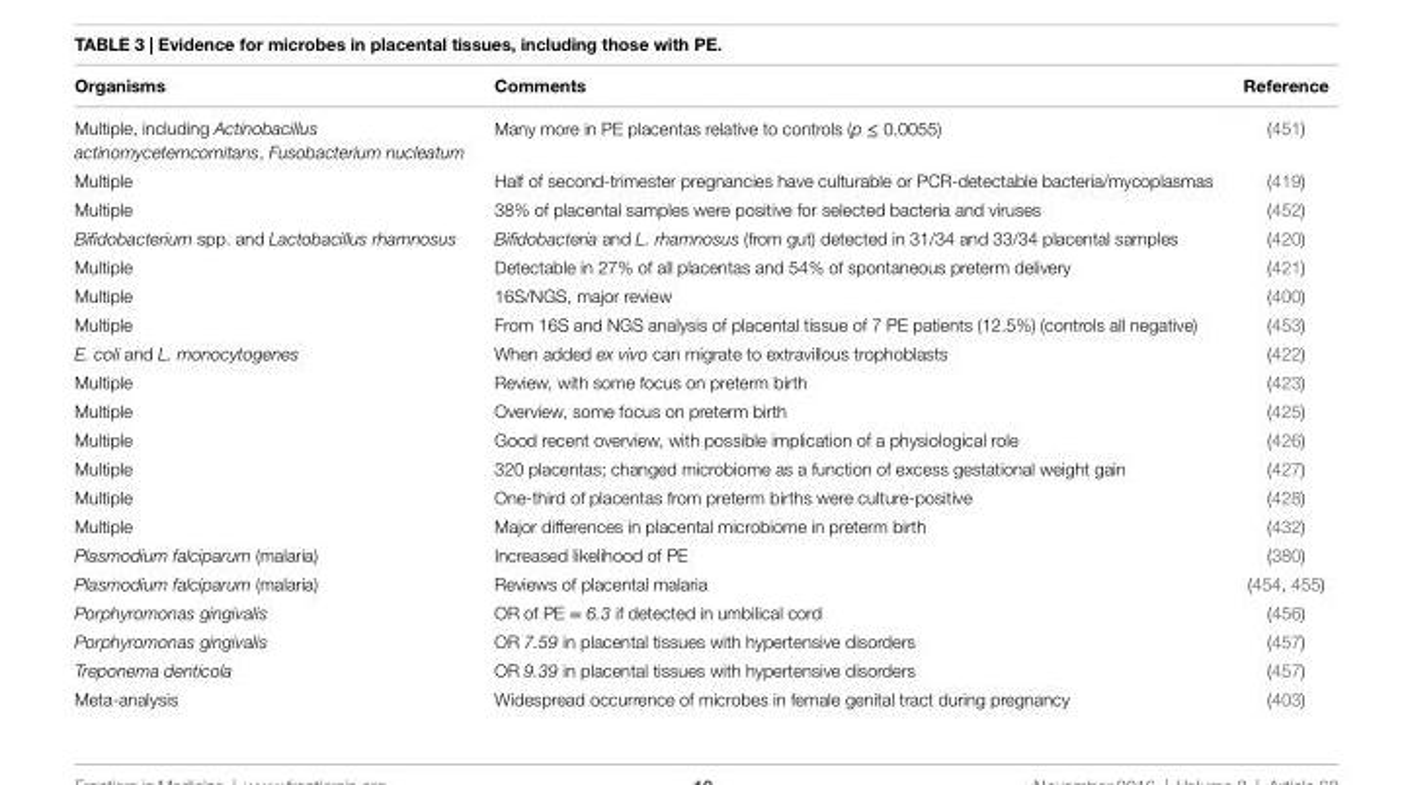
<table><thead><tr><td>Organisms</td><td>Comments</td><td>Reference</td></tr></thead><tbody><tr><td>Multiple, including Actinobacillus actinomycetemcomitans, Fusobacterium nucleatum</td><td>Many more in PE placentas relative to controls (p ≤ 0.0055)</td><td>(451)</td></tr><tr><td>Multiple</td><td>Half of second-trimester pregnancies have culturable or PCR-detectable bacteria/mycoplasmas</td><td>(419)</td></tr><tr><td>Multiple</td><td>38% of placental samples were positive for selected bacteria and viruses</td><td>(452)</td></tr><tr><td>Bifidobacterium spp. and Lactobacillus rhamnosus</td><td>Bifidobacteria and L. rhamnosus (from gut) detected in 31/34 and 33/34 placental samples</td><td>(420)</td></tr><tr><td>Multiple</td><td>Detectable in 27% of all placentas and 54% of spontaneous preterm delivery</td><td>(421)</td></tr><tr><td>Multiple</td><td>16S/NGS, major review</td><td>(400)</td></tr><tr><td>Multiple</td><td>From 16S and NGS analysis of placental tissue of 7 PE patients (12.5%) (controls all negative)</td><td>(453)</td></tr><tr><td>E. coli and L. monocytogenes</td><td>When added ex vivo can migrate to extravillous trophoblasts</td><td>(422)</td></tr><tr><td>Multiple</td><td>Review, with some focus on preterm birth</td><td>(423)</td></tr><tr><td>Multiple</td><td>Overview, some focus on preterm birth</td><td>(425)</td></tr><tr><td>Multiple</td><td>Good recent overview, with possible implication of a physiological role</td><td>(426)</td></tr><tr><td>Multiple</td><td>320 placentas; changed microbiome as a function of excess gestational weight gain</td><td>(427)</td></tr><tr><td>Multiple</td><td>One-third of placentas from preterm births were culture-positive</td><td>(428)</td></tr><tr><td>Multiple</td><td>Major differences in placental microbiome in preterm birth</td><td>(432)</td></tr><tr><td>Plasmodium falciparum (malaria)</td><td>Increased likelihood of PE</td><td>(380)</td></tr><tr><td>Plasmodium falciparum (malaria)</td><td>Reviews of placental malaria</td><td>(454, 455)</td></tr><tr><td>Porphyromonas gingivalis</td><td>OR of PE = 6.3 if detected in umbilical cord</td><td>(456)</td></tr><tr><td>Porphyromonas gingivalis</td><td>OR 7.59 in placental tissues with hypertensive disorders</td><td>(457)</td></tr><tr><td>Treponema denticola</td><td>OR 9.39 in placental tissues with hypertensive disorders</td><td>(457)</td></tr><tr><td>Meta-analysis</td><td>Widespread occurrence of microbes in female genital tract during pregnancy</td><td>(403)</td></tr></tbody></table>